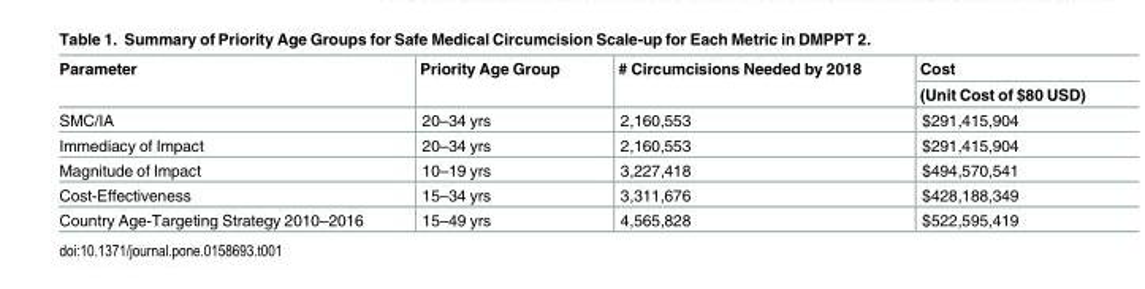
<table><thead><tr><td rowspan="2">Parameter</td><td rowspan="2">Priority Age Group</td><td rowspan="2"># Circumcisions Needed by 2018</td><td rowspan="2">Cost (Unit Cost of $80 USD)</td></tr><tr></tr></thead><tbody><tr><td>SMC/IA</td><td>20–34 yrs</td><td>2,160,553</td><td>$291,415,904</td></tr><tr><td>Immediacy of Impact</td><td>20–34 yrs</td><td>2,160,553</td><td>$291,415,904</td></tr><tr><td>Magnitude of Impact</td><td>10–19 yrs</td><td>3,227,418</td><td>$494,570,541</td></tr><tr><td>Cost-Effectiveness</td><td>15–34 yrs</td><td>3,311,676</td><td>$428,188,349</td></tr><tr><td>Country Age-Targeting Strategy 2010–2016</td><td>15–49 yrs</td><td>4,565,828</td><td>$522,595,419</td></tr></tbody></table>